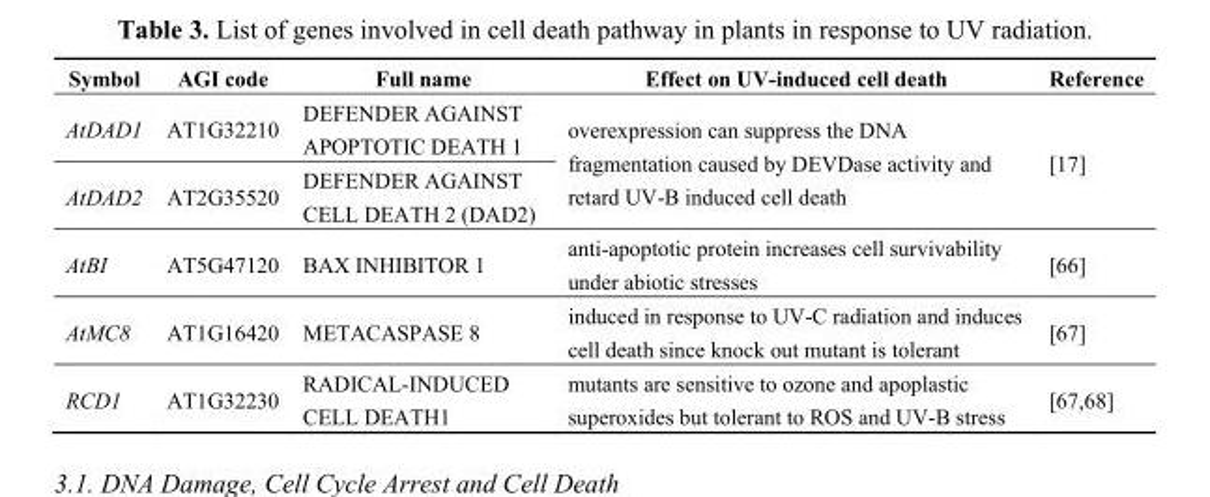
<table><thead><tr><td>Symbol</td><td>AGI code</td><td>Full name</td><td>Effect on UV-induced cell death</td><td>Reference</td></tr></thead><tbody><tr><td>AtDAD1</td><td>AT1G32210</td><td>DEFENDER AGAINST APOPTOTIC DEATH 1</td><td rowspan="2">overexpression can suppress the DNA fragmentation caused by DEVDase activity and retard UV-B induced cell death</td><td rowspan="2">[ 17]</td></tr><tr><td>AtDAD2</td><td>AT2G35520</td><td>DEFENDER AGAINST CELL DEATH 2 (DAD2)</td></tr><tr><td>AtBI</td><td>AT5G47120</td><td>BAX INHIBITOR 1</td><td>anti-apoptotic protein increases cell survivability under abiotic stresses</td><td>[ 66]</td></tr><tr><td>AtMC8</td><td>AT1G16420</td><td>METACASPASE 8</td><td>induced in response to UV-C radiation and induces cell death since knock out mutant is tolerant</td><td>[ 67]</td></tr><tr><td>RCD1</td><td>AT1G32230</td><td>RADICAL-INDUCED CELL DEATH1</td><td>mutants are sensitive to ozone and apoplastic superoxides but tolerant to ROS and UV-B stress</td><td>[ 67, 68]</td></tr></tbody></table>